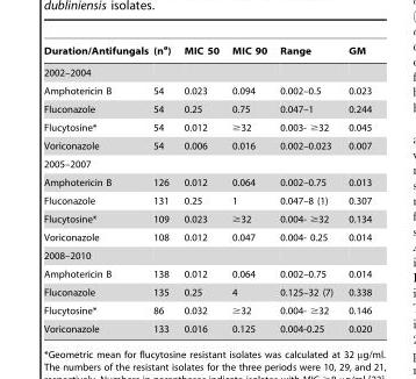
<table><thead><tr><td>Duration/Antifungals</td><td>(n<sup>a</sup>)</td><td>MIC 50</td><td>MIC 90</td><td>Range</td><td>GM</td></tr></thead><tbody><tr><td colspan="6">2002–2004</td></tr><tr><td>Amphotericin B</td><td>54</td><td>0.023</td><td>0.094</td><td>0.002–0.5</td><td>0.023</td></tr><tr><td>Fluconazole</td><td>54</td><td>0.25</td><td>0.75</td><td>0.047–1</td><td>0.244</td></tr><tr><td>Flucytosine*</td><td>54</td><td>0.012</td><td>≥32</td><td>0.003- ≥32</td><td>0.045</td></tr><tr><td>Voriconazole</td><td>54</td><td>0.006</td><td>0.016</td><td>0.002–0.023</td><td>0.007</td></tr><tr><td colspan="6">2005–2007</td></tr><tr><td>Amphotericin B</td><td>126</td><td>0.012</td><td>0.064</td><td>0.002–0.75</td><td>0.013</td></tr><tr><td>Fluconazole</td><td>131</td><td>0.25</td><td>1</td><td>0.047–8 (1)</td><td>0.307</td></tr><tr><td>Flucytosine*</td><td>109</td><td>0.023</td><td>≥32</td><td>0.004- ≥32</td><td>0.134</td></tr><tr><td>Voriconazole</td><td>108</td><td>0.012</td><td>0.047</td><td>0.004- 0.25</td><td>0.014</td></tr><tr><td colspan="6">2008–2010</td></tr><tr><td>Amphotericin B</td><td>138</td><td>0.012</td><td>0.064</td><td>0.002–0.75</td><td>0.014</td></tr><tr><td>Fluconazole</td><td>135</td><td>0.25</td><td>4</td><td>0.125–32 (7)</td><td>0.338</td></tr><tr><td>Flucytosine*</td><td>86</td><td>0.032</td><td>≥32</td><td>0.004- ≥32</td><td>0.146</td></tr><tr><td>Voriconazole</td><td>133</td><td>0.016</td><td>0.125</td><td>0.004-0.25</td><td>0.020</td></tr></tbody></table>